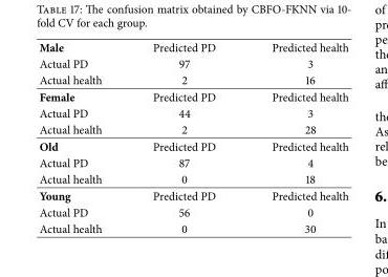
<table><tbody><tr><td>Male</td><td>Predicted PD</td><td>Predicted health</td></tr><tr><td>Actual PD</td><td>97</td><td>3</td></tr><tr><td>Actual health</td><td>2</td><td>16</td></tr><tr><td>Female</td><td>Predicted PD</td><td>Predicted health</td></tr><tr><td>Actual PD</td><td>44</td><td>3</td></tr><tr><td>Actual health</td><td>2</td><td>28</td></tr><tr><td>Old</td><td>Predicted PD</td><td>Predicted health</td></tr><tr><td>Actual PD</td><td>87</td><td>4</td></tr><tr><td>Actual health</td><td>0</td><td>18</td></tr><tr><td>Young</td><td>Predicted PD</td><td>Predicted health</td></tr><tr><td>Actual PD</td><td>56</td><td>0</td></tr><tr><td>Actual health</td><td>0</td><td>30</td></tr></tbody></table>